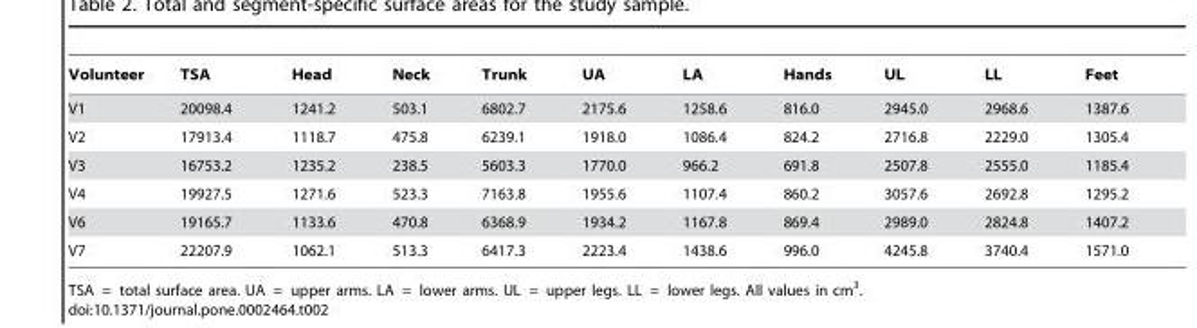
<table><thead><tr><td>Volunteer</td><td>TSA</td><td>Head</td><td>Neck</td><td>Trunk</td><td>UA</td><td>LA</td><td>Hands</td><td>UL</td><td>LL</td><td>Feet</td></tr></thead><tbody><tr><td>V1</td><td>20098.4</td><td>1241.2</td><td>503.1</td><td>6802.7</td><td>2175.6</td><td>1258.6</td><td>816.0</td><td>2945.0</td><td>2968.6</td><td>1387.6</td></tr><tr><td>V2</td><td>17913.4</td><td>1118.7</td><td>475.8</td><td>6239.1</td><td>1918.0</td><td>1086.4</td><td>824.2</td><td>2716.8</td><td>2229.0</td><td>1305.4</td></tr><tr><td>V3</td><td>16753.2</td><td>1235.2</td><td>238.5</td><td>5603.3</td><td>1770.0</td><td>966.2</td><td>691.8</td><td>2507.8</td><td>2555.0</td><td>1185.4</td></tr><tr><td>V4</td><td>19927.5</td><td>1271.6</td><td>523.3</td><td>7163.8</td><td>1955.6</td><td>1107.4</td><td>860.2</td><td>3057.6</td><td>2692.8</td><td>1295.2</td></tr><tr><td>V6</td><td>19165.7</td><td>1133.6</td><td>470.8</td><td>6368.9</td><td>1934.2</td><td>1167.8</td><td>869.4</td><td>2989.0</td><td>2824.8</td><td>1407.2</td></tr><tr><td>V7</td><td>22207.9</td><td>1062.1</td><td>513.3</td><td>6417.3</td><td>2223.4</td><td>1438.6</td><td>996.0</td><td>4245.8</td><td>3740.4</td><td>1571.0</td></tr></tbody></table>